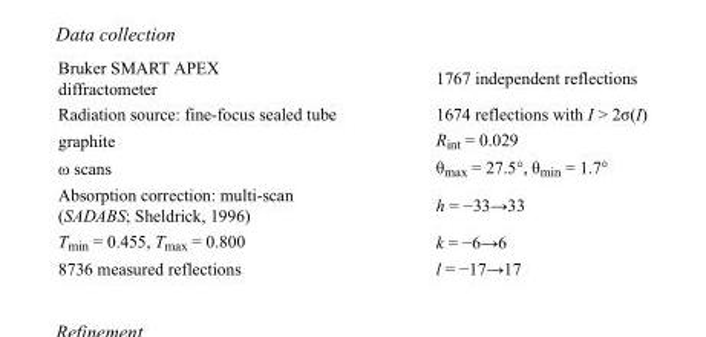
<table><tbody><tr><td>Bruker SMART APEX diffractometer</td><td>1767 independent reflections</td></tr><tr><td>Radiation source: fine-focus sealed tube</td><td>1674 reflections with I &gt; 2σ(I)</td></tr><tr><td>graphite</td><td>R<sub>int</sub> = 0.029</td></tr><tr><td>ω scans</td><td>θ<sub>max</sub> = 27.5°, θ<sub>min</sub> = 1.7°</td></tr><tr><td>Absorption correction: multi-scan (SADABS; Sheldrick, 1996)</td><td>h = −33→33</td></tr><tr><td>T<sub>min</sub> = 0.455, T<sub>max</sub> = 0.800</td><td>k = −6→6</td></tr><tr><td>8736 measured reflections</td><td>l = −17→17</td></tr></tbody></table>